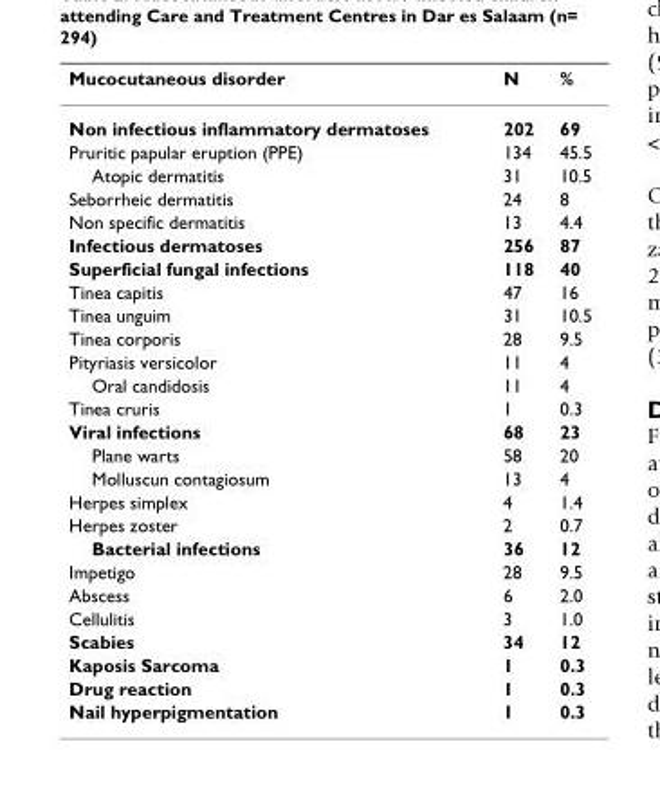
<table><thead><tr><td>Mucocutaneous disorder</td><td>N</td><td>%</td></tr></thead><tbody><tr><td>Non infectious inflammatory dermatoses</td><td>202</td><td>69</td></tr><tr><td>Pruritic papular eruption (PPE)</td><td>134</td><td>45.5</td></tr><tr><td>Atopic dermatitis</td><td>31</td><td>10.5</td></tr><tr><td>Seborrheic dermatitis</td><td>24</td><td>8</td></tr><tr><td>Non specific dermatitis</td><td>13</td><td>4.4</td></tr><tr><td>Infectious dermatoses</td><td>256</td><td>87</td></tr><tr><td>Superficial fungal infections</td><td>118</td><td>40</td></tr><tr><td>Tinea capitis</td><td>47</td><td>16</td></tr><tr><td>Tinea unguim</td><td>31</td><td>10.5</td></tr><tr><td>Tinea corporis</td><td>28</td><td>9.5</td></tr><tr><td>Pityriasis versicolor</td><td>11</td><td>4</td></tr><tr><td>Oral candidosis</td><td>11</td><td>4</td></tr><tr><td>Tinea cruris</td><td>1</td><td>0.3</td></tr><tr><td>Viral infections</td><td>68</td><td>23</td></tr><tr><td>Plane warts</td><td>58</td><td>20</td></tr><tr><td>Molluscun contagiosum</td><td>13</td><td>4</td></tr><tr><td>Herpes simplex</td><td>4</td><td>1.4</td></tr><tr><td>Herpes zoster</td><td>2</td><td>0.7</td></tr><tr><td>Bacterial infections</td><td>36</td><td>12</td></tr><tr><td>Impetigo</td><td>28</td><td>9.5</td></tr><tr><td>Abscess</td><td>6</td><td>2.0</td></tr><tr><td>Cellulitis</td><td>3</td><td>1.0</td></tr><tr><td>Scabies</td><td>34</td><td>12</td></tr><tr><td>Kaposis Sarcoma</td><td>1</td><td>0.3</td></tr><tr><td>Drug reaction</td><td>1</td><td>0.3</td></tr><tr><td>Nail hyperpigmentation</td><td>1</td><td>0.3</td></tr></tbody></table>